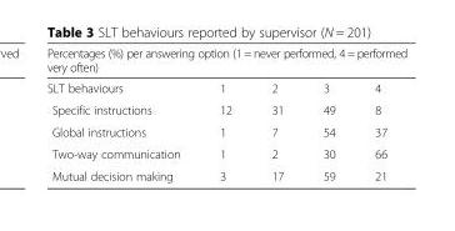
<table><thead><tr><td colspan="5">Percentages (%) per answering option (1 = never performed, 4 = performed very often)</td></tr><tr><td>SLT behaviours</td><td>1</td><td>2</td><td>3</td><td>4</td></tr></thead><tbody><tr><td>Specific instructions</td><td>12</td><td>31</td><td>49</td><td>8</td></tr><tr><td>Global instructions</td><td>1</td><td>7</td><td>54</td><td>37</td></tr><tr><td>Two-way communication</td><td>1</td><td>2</td><td>30</td><td>66</td></tr><tr><td>Mutual decision making</td><td>3</td><td>17</td><td>59</td><td>21</td></tr></tbody></table>